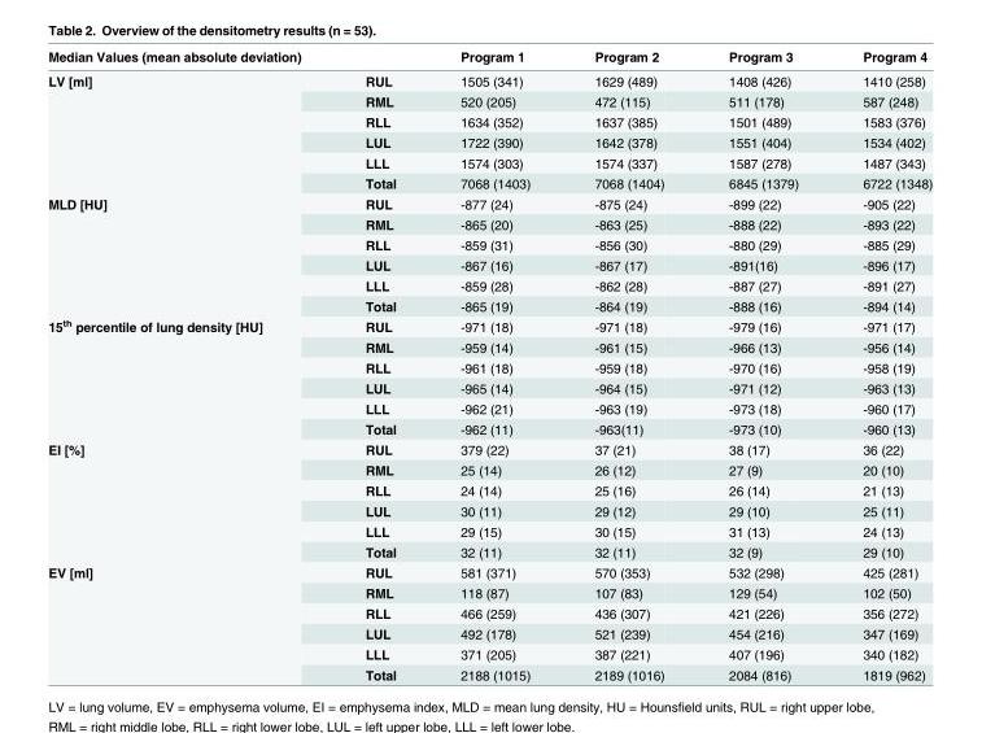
<table><thead><tr><td>Median Values (mean absolute deviation)</td><td></td><td>Program 1</td><td>Program 2</td><td>Program 3</td><td>Program 4</td></tr></thead><tbody><tr><td rowspan="6">LV [ml]</td><td>RUL</td><td>1505 (341)</td><td>1629 (489)</td><td>1408 (426)</td><td>1410 (258)</td></tr><tr><td>RML</td><td>520 (205)</td><td>472 (115)</td><td>511 (178)</td><td>587 (248)</td></tr><tr><td>RLL</td><td>1634 (352)</td><td>1637 (385)</td><td>1501 (489)</td><td>1583 (376)</td></tr><tr><td>LUL</td><td>1722 (390)</td><td>1642 (378)</td><td>1551 (404)</td><td>1534 (402)</td></tr><tr><td>LLL</td><td>1574 (303)</td><td>1574 (337)</td><td>1587 (278)</td><td>1487 (343)</td></tr><tr><td>Total</td><td>7068 (1403)</td><td>7068 (1404)</td><td>6845 (1379)</td><td>6722 (1348)</td></tr><tr><td rowspan="6">MLD [HU]</td><td>RUL</td><td>-877 (24)</td><td>-875 (24)</td><td>-899 (22)</td><td>-905 (22)</td></tr><tr><td>RML</td><td>-865 (20)</td><td>-863 (25)</td><td>-888 (22)</td><td>-893 (22)</td></tr><tr><td>RLL</td><td>-859 (31)</td><td>-856 (30)</td><td>-880 (29)</td><td>-885 (29)</td></tr><tr><td>LUL</td><td>-867 (16)</td><td>-867 (17)</td><td>-891(16)</td><td>-896 (17)</td></tr><tr><td>LLL</td><td>-859 (28)</td><td>-862 (28)</td><td>-887 (27)</td><td>-891 (27)</td></tr><tr><td>Total</td><td>-865 (19)</td><td>-864 (19)</td><td>-888 (16)</td><td>-894 (14)</td></tr><tr><td rowspan="6">15<sup>th</sup> percentile of lung density [HU]</td><td>RUL</td><td>-971 (18)</td><td>-971 (18)</td><td>-979 (16)</td><td>-971 (17)</td></tr><tr><td>RML</td><td>-959 (14)</td><td>-961 (15)</td><td>-966 (13)</td><td>-956 (14)</td></tr><tr><td>RLL</td><td>-961 (18)</td><td>-959 (18)</td><td>-970 (16)</td><td>-958 (19)</td></tr><tr><td>LUL</td><td>-965 (14)</td><td>-964 (15)</td><td>-971 (12)</td><td>-963 (13)</td></tr><tr><td>LLL</td><td>-962 (21)</td><td>-963 (19)</td><td>-973 (18)</td><td>-960 (17)</td></tr><tr><td>Total</td><td>-962 (11)</td><td>-963(11)</td><td>-973 (10)</td><td>-960 (13)</td></tr><tr><td rowspan="6">EI [%]</td><td>RUL</td><td>379 (22)</td><td>37 (21)</td><td>38 (17)</td><td>36 (22)</td></tr><tr><td>RML</td><td>25 (14)</td><td>26 (12)</td><td>27 (9)</td><td>20 (10)</td></tr><tr><td>RLL</td><td>24 (14)</td><td>25 (16)</td><td>26 (14)</td><td>21 (13)</td></tr><tr><td>LUL</td><td>30 (11)</td><td>29 (12)</td><td>29 (10)</td><td>25 (11)</td></tr><tr><td>LLL</td><td>29 (15)</td><td>30 (15)</td><td>31 (13)</td><td>24 (13)</td></tr><tr><td>Total</td><td>32 (11)</td><td>32 (11)</td><td>32 (9)</td><td>29 (10)</td></tr><tr><td rowspan="6">EV [ml]</td><td>RUL</td><td>581 (371)</td><td>570 (353)</td><td>532 (298)</td><td>425 (281)</td></tr><tr><td>RML</td><td>118 (87)</td><td>107 (83)</td><td>129 (54)</td><td>102 (50)</td></tr><tr><td>RLL</td><td>466 (259)</td><td>436 (307)</td><td>421 (226)</td><td>356 (272)</td></tr><tr><td>LUL</td><td>492 (178)</td><td>521 (239)</td><td>454 (216)</td><td>347 (169)</td></tr><tr><td>LLL</td><td>371 (205)</td><td>387 (221)</td><td>407 (196)</td><td>340 (182)</td></tr><tr><td>Total</td><td>2188 (1015)</td><td>2189 (1016)</td><td>2084 (816)</td><td>1819 (962)</td></tr></tbody></table>